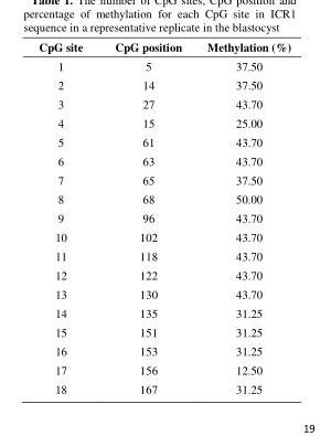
<table><thead><tr><td>CpG site</td><td>CpG position</td><td>Methylation (%)</td></tr></thead><tbody><tr><td>1</td><td>5</td><td>37.50</td></tr><tr><td>2</td><td>14</td><td>37.50</td></tr><tr><td>3</td><td>27</td><td>43.70</td></tr><tr><td>4</td><td>15</td><td>25.00</td></tr><tr><td>5</td><td>61</td><td>43.70</td></tr><tr><td>6</td><td>63</td><td>43.70</td></tr><tr><td>7</td><td>65</td><td>37.50</td></tr><tr><td>8</td><td>68</td><td>50.00</td></tr><tr><td>9</td><td>96</td><td>43.70</td></tr><tr><td>10</td><td>102</td><td>43.70</td></tr><tr><td>11</td><td>118</td><td>43.70</td></tr><tr><td>12</td><td>122</td><td>43.70</td></tr><tr><td>13</td><td>130</td><td>43.70</td></tr><tr><td>14</td><td>135</td><td>31.25</td></tr><tr><td>15</td><td>151</td><td>31.25</td></tr><tr><td>16</td><td>153</td><td>31.25</td></tr><tr><td>17</td><td>156</td><td>12.50</td></tr><tr><td>18</td><td>167</td><td>31.25</td></tr></tbody></table>